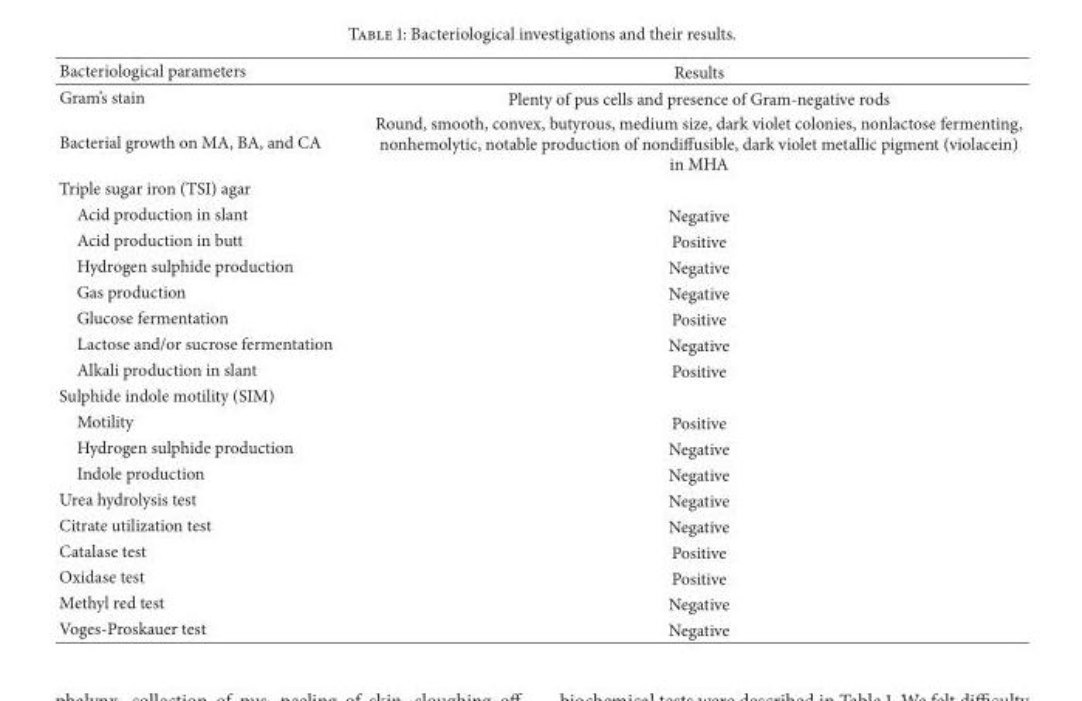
<table><thead><tr><td>Bacteriological parameters</td><td>Results</td></tr></thead><tbody><tr><td>Gram’s stain</td><td>Plenty of pus cells and presence of Gram-negative rods</td></tr><tr><td>Bacterial growth on MA, BA, and CA</td><td>Round, smooth, convex, butyrous, medium size, dark violet colonies, nonlactose fermenting, nonhemolytic, notable production of nondiffusible, dark violet metallic pigment (violacein) in MHA</td></tr><tr><td colspan="2">Triple sugar iron (TSI) agar</td></tr><tr><td>Acid production in slant</td><td>Negative</td></tr><tr><td>Acid production in butt</td><td>Positive</td></tr><tr><td>Hydrogen sulphide production</td><td>Negative</td></tr><tr><td>Gas production</td><td>Negative</td></tr><tr><td>Glucose fermentation</td><td>Positive</td></tr><tr><td>Lactose and/or sucrose fermentation</td><td>Negative</td></tr><tr><td>Alkali production in slant</td><td>Positive</td></tr><tr><td colspan="2">Sulphide indole motility (SIM)</td></tr><tr><td>Motility</td><td>Positive</td></tr><tr><td>Hydrogen sulphide production</td><td>Negative</td></tr><tr><td>Indole production</td><td>Negative</td></tr><tr><td>Urea hydrolysis test</td><td>Negative</td></tr><tr><td>Citrate utilization test</td><td>Negative</td></tr><tr><td>Catalase test</td><td>Positive</td></tr><tr><td>Oxidase test</td><td>Positive</td></tr><tr><td>Methyl red test</td><td>Negative</td></tr><tr><td>Voges-Proskauer test</td><td>Negative</td></tr></tbody></table>